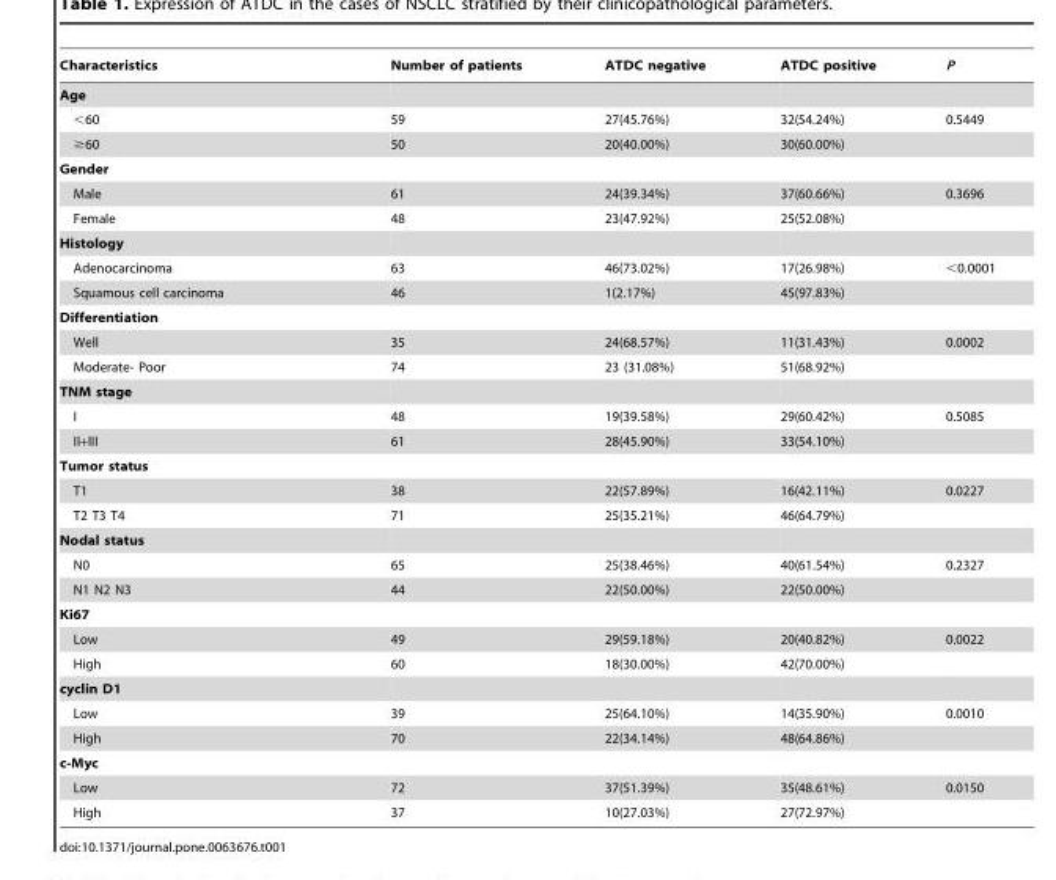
<table><thead><tr><td>Characteristics</td><td>Number of patients</td><td>ATDC negative</td><td>ATDC positive</td><td>P</td></tr></thead><tbody><tr><td colspan="5">Age</td></tr><tr><td>&lt;60</td><td>59</td><td>27(45.76%)</td><td>32(54.24%)</td><td>0.5449</td></tr><tr><td>≥60</td><td>50</td><td>20(40.00%)</td><td>30(60.00%)</td><td></td></tr><tr><td colspan="5">Gender</td></tr><tr><td>Male</td><td>61</td><td>24(39.34%)</td><td>37(60.66%)</td><td>0.3696</td></tr><tr><td>Female</td><td>48</td><td>23(47.92%)</td><td>25(52.08%)</td><td></td></tr><tr><td colspan="5">Histology</td></tr><tr><td>Adenocarcinoma</td><td>63</td><td>46(73.02%)</td><td>17(26.98%)</td><td>&lt;0.0001</td></tr><tr><td>Squamous cell carcinoma</td><td>46</td><td>1(2.17%)</td><td>45(97.83%)</td><td></td></tr><tr><td colspan="5">Differentiation</td></tr><tr><td>Well</td><td>35</td><td>24(68.57%)</td><td>11(31.43%)</td><td>0.0002</td></tr><tr><td>Moderate- Poor</td><td>74</td><td>23 (31.08%)</td><td>51(68.92%)</td><td></td></tr><tr><td colspan="5">TNM stage</td></tr><tr><td>I</td><td>48</td><td>19(39.58%)</td><td>29(60.42%)</td><td>0.5085</td></tr><tr><td>II+III</td><td>61</td><td>28(45.90%)</td><td>33(54.10%)</td><td></td></tr><tr><td colspan="5">Tumor status</td></tr><tr><td>T1</td><td>38</td><td>22(57.89%)</td><td>16(42.11%)</td><td>0.0227</td></tr><tr><td>T2 T3 T4</td><td>71</td><td>25(35.21%)</td><td>46(64.79%)</td><td></td></tr><tr><td colspan="5">Nodal status</td></tr><tr><td>N0</td><td>65</td><td>25(38.46%)</td><td>40(61.54%)</td><td>0.2327</td></tr><tr><td>N1 N2 N3</td><td>44</td><td>22(50.00%)</td><td>22(50.00%)</td><td></td></tr><tr><td colspan="5">Ki67</td></tr><tr><td>Low</td><td>49</td><td>29(59.18%)</td><td>20(40.82%)</td><td>0.0022</td></tr><tr><td>High</td><td>60</td><td>18(30.00%)</td><td>42(70.00%)</td><td></td></tr><tr><td colspan="5">cyclin D1</td></tr><tr><td>Low</td><td>39</td><td>25(64.10%)</td><td>14(35.90%)</td><td>0.0010</td></tr><tr><td>High</td><td>70</td><td>22(34.14%)</td><td>48(64.86%)</td><td></td></tr><tr><td colspan="5">c-Myc</td></tr><tr><td>Low</td><td>72</td><td>37(51.39%)</td><td>35(48.61%)</td><td>0.0150</td></tr><tr><td>High</td><td>37</td><td>10(27.03%)</td><td>27(72.97%)</td><td></td></tr></tbody></table>